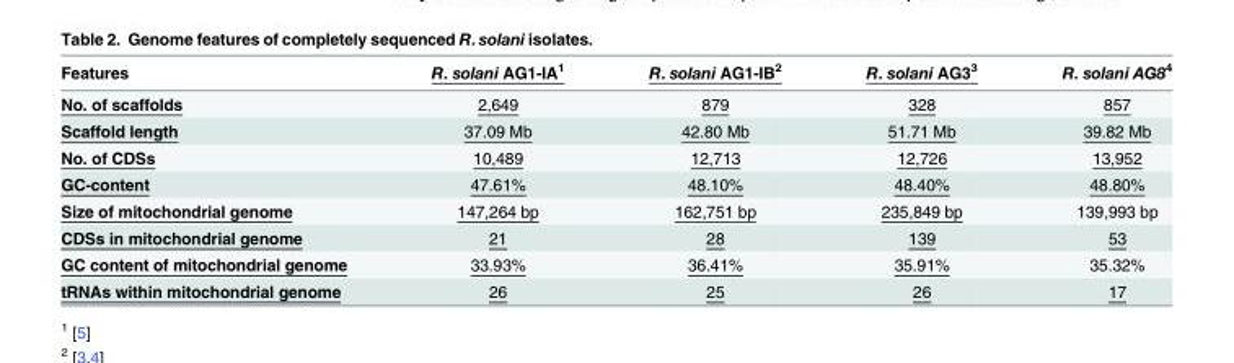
<table><thead><tr><td>Features</td><td>R. solani AG1-IA<sup>1</sup></td><td>R. solani AG1-IB<sup>2</sup></td><td>R. solani AG3<sup>3</sup></td><td>R. solani AG8<sup>4</sup></td></tr></thead><tbody><tr><td>No. of scaffolds</td><td>2,649</td><td>879</td><td>328</td><td>857</td></tr><tr><td>Scaffold length</td><td>37.09 Mb</td><td>42.80 Mb</td><td>51.71 Mb</td><td>39.82 Mb</td></tr><tr><td>No. of CDSs</td><td>10,489</td><td>12,713</td><td>12,726</td><td>13,952</td></tr><tr><td>GC-content</td><td>47.61%</td><td>48.10%</td><td>48.40%</td><td>48.80%</td></tr><tr><td>Size of mitochondrial genome</td><td>147,264 bp</td><td>162,751 bp</td><td>235,849 bp</td><td>139,993 bp</td></tr><tr><td>CDSs in mitochondrial genome</td><td>21</td><td>28</td><td>139</td><td>53</td></tr><tr><td>GC content of mitochondrial genome</td><td>33.93%</td><td>36.41%</td><td>35.91%</td><td>35.32%</td></tr><tr><td>tRNAs within mitochondrial genome</td><td>26</td><td>25</td><td>26</td><td>17</td></tr></tbody></table>